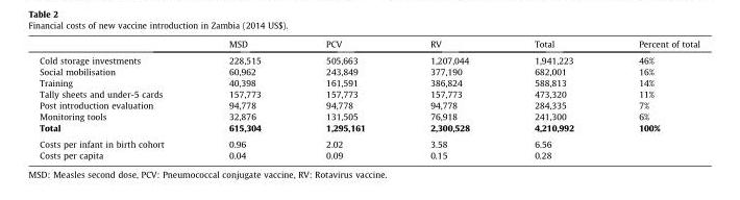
<table><thead><tr><td></td><td>MSD</td><td>PCV</td><td>RV</td><td>Total</td><td>Percent of total</td></tr></thead><tbody><tr><td>Cold storage investments</td><td>228,515</td><td>505,663</td><td>1,207,044</td><td>1,941,223</td><td>46%</td></tr><tr><td>Social mobilisation</td><td>60,962</td><td>243,849</td><td>377,190</td><td>682,001</td><td>16%</td></tr><tr><td>Training</td><td>40,398</td><td>161,591</td><td>386,824</td><td>588,813</td><td>14%</td></tr><tr><td>Tally sheets and under-5 cards</td><td>157,773</td><td>157,773</td><td>157,773</td><td>473,320</td><td>11%</td></tr><tr><td>Post introduction evaluation</td><td>94,778</td><td>94,778</td><td>94,778</td><td>284,335</td><td>7%</td></tr><tr><td>Monitoring tools</td><td>32,876</td><td>131,505</td><td>76,918</td><td>241,300</td><td>6%</td></tr><tr><td>Total</td><td>615,304</td><td>1,295,161</td><td>2,300,528</td><td>4,210,992</td><td>100%</td></tr><tr><td>Costs per infant in birth cohort</td><td>0.96</td><td>2.02</td><td>3.58</td><td>6.56</td><td></td></tr><tr><td>Costs per capita</td><td>0.04</td><td>0.09</td><td>0.15</td><td>0.28</td><td></td></tr></tbody></table>